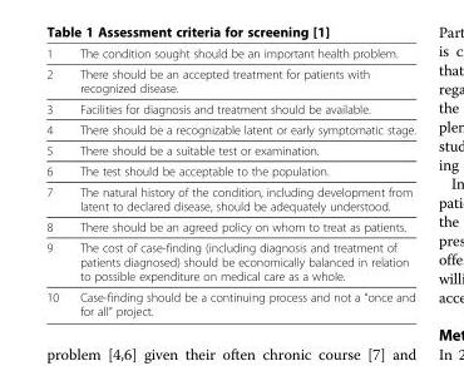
<table><tbody><tr><td>1</td><td>The condition sought should be an important health problem.</td></tr><tr><td>2</td><td>There should be an accepted treatment for patients with recognized disease.</td></tr><tr><td>3</td><td>Facilities for diagnosis and treatment should be available.</td></tr><tr><td>4</td><td>There should be a recognizable latent or early symptomatic stage.</td></tr><tr><td>5</td><td>There should be a suitable test or examination.</td></tr><tr><td>6</td><td>The test should be acceptable to the population.</td></tr><tr><td>7</td><td>The natural history of the condition, including development from latent to declared disease, should be adequately understood.</td></tr><tr><td>8</td><td>There should be an agreed policy on whom to treat as patients.</td></tr><tr><td>9</td><td>The cost of case-finding (including diagnosis and treatment of patients diagnosed) should be economically balanced in relation to possible expenditure on medical care as a whole.</td></tr><tr><td>10</td><td>Case-finding should be a continuing process and not a “once and for all” project.</td></tr></tbody></table>